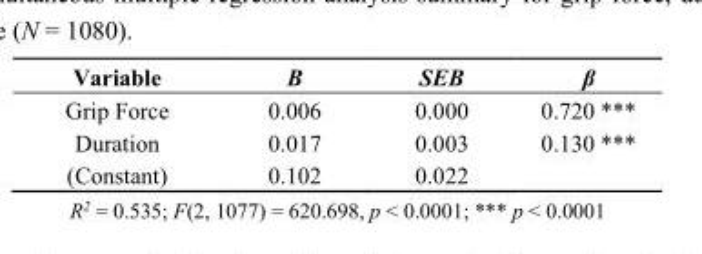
<table><thead><tr><td>Variable</td><td>B</td><td>SEB</td><td>β</td></tr></thead><tbody><tr><td>Grip Force</td><td>0.006</td><td>0.000</td><td>0.720 ***</td></tr><tr><td>Duration</td><td>0.017</td><td>0.003</td><td>0.130 ***</td></tr><tr><td>(Constant)</td><td>0.102</td><td>0.022</td><td></td></tr></tbody></table>